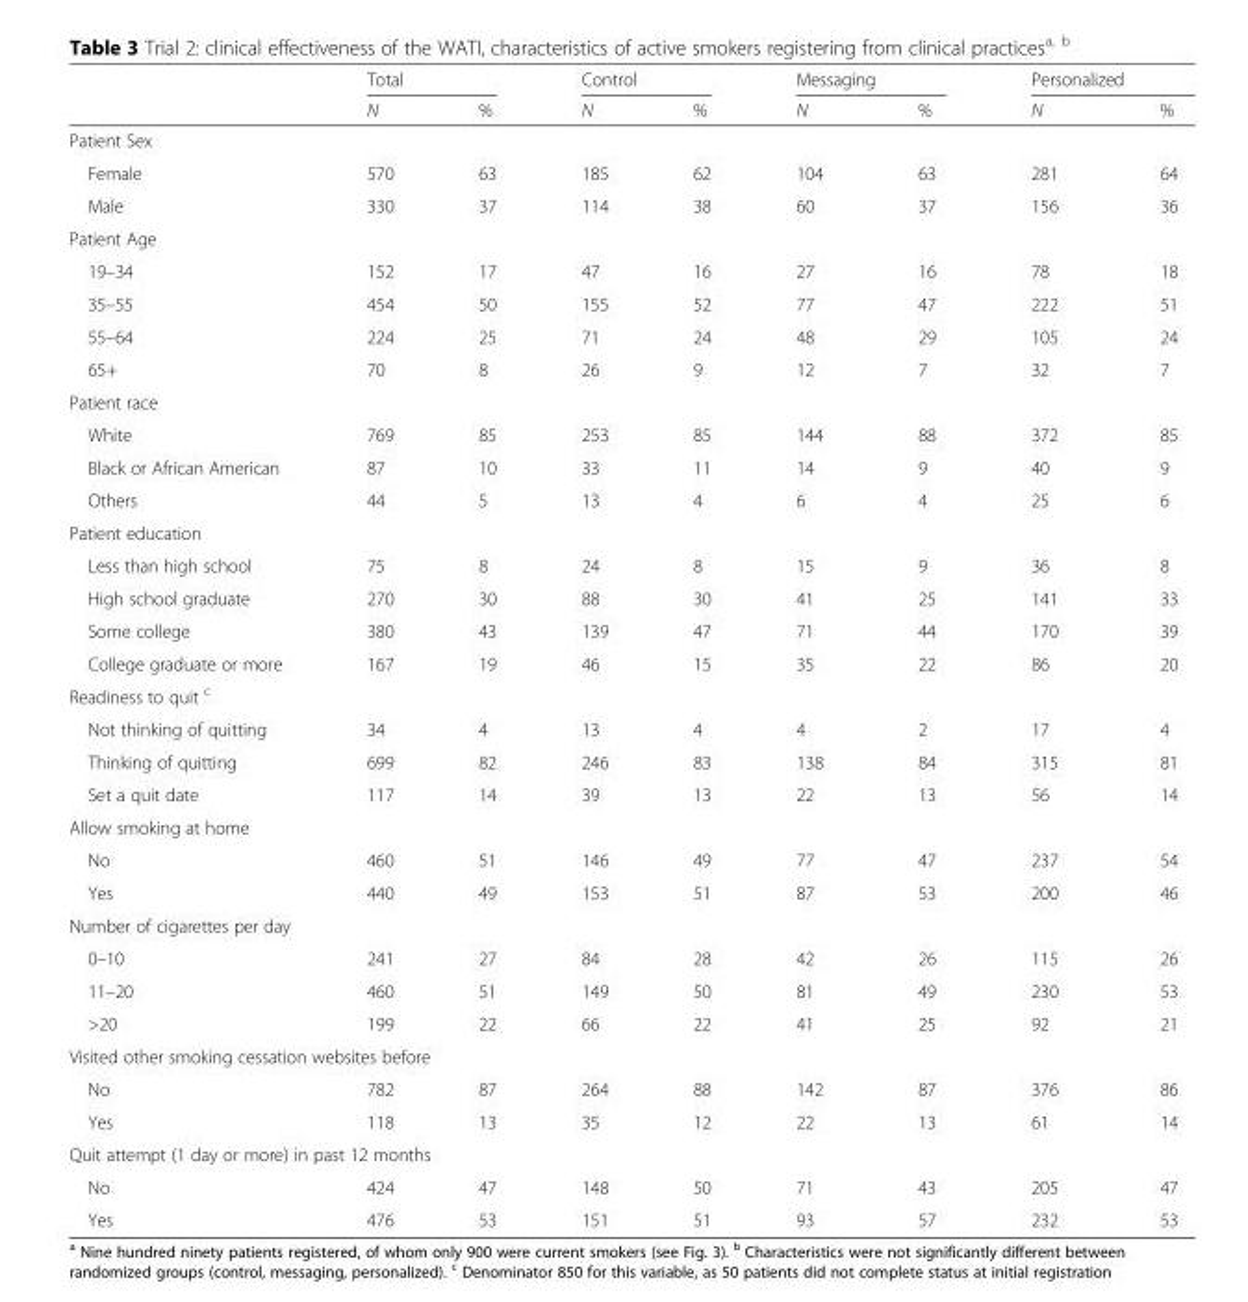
<table><thead><tr><td rowspan="2"></td><td colspan="2">Total</td><td colspan="2">Control</td><td colspan="2">Messaging</td><td colspan="2">Personalized</td></tr><tr><td>N</td><td>%</td><td>N</td><td>%</td><td>N</td><td>%</td><td>N</td><td>%</td></tr></thead><tbody><tr><td colspan="9">Patient Sex</td></tr><tr><td>Female</td><td>570</td><td>63</td><td>185</td><td>62</td><td>104</td><td>63</td><td>281</td><td>64</td></tr><tr><td>Male</td><td>330</td><td>37</td><td>114</td><td>38</td><td>60</td><td>37</td><td>156</td><td>36</td></tr><tr><td colspan="9">Patient Age</td></tr><tr><td>19–34</td><td>152</td><td>17</td><td>47</td><td>16</td><td>27</td><td>16</td><td>78</td><td>18</td></tr><tr><td>35–55</td><td>454</td><td>50</td><td>155</td><td>52</td><td>77</td><td>47</td><td>222</td><td>51</td></tr><tr><td>55–64</td><td>224</td><td>25</td><td>71</td><td>24</td><td>48</td><td>29</td><td>105</td><td>24</td></tr><tr><td>65+</td><td>70</td><td>8</td><td>26</td><td>9</td><td>12</td><td>7</td><td>32</td><td>7</td></tr><tr><td colspan="9">Patient race</td></tr><tr><td>White</td><td>769</td><td>85</td><td>253</td><td>85</td><td>144</td><td>88</td><td>372</td><td>85</td></tr><tr><td>Black or African American</td><td>87</td><td>10</td><td>33</td><td>11</td><td>14</td><td>9</td><td>40</td><td>9</td></tr><tr><td>Others</td><td>44</td><td>5</td><td>13</td><td>4</td><td>6</td><td>4</td><td>25</td><td>6</td></tr><tr><td colspan="9">Patient education</td></tr><tr><td>Less than high school</td><td>75</td><td>8</td><td>24</td><td>8</td><td>15</td><td>9</td><td>36</td><td>8</td></tr><tr><td>High school graduate</td><td>270</td><td>30</td><td>88</td><td>30</td><td>41</td><td>25</td><td>141</td><td>33</td></tr><tr><td>Some college</td><td>380</td><td>43</td><td>139</td><td>47</td><td>71</td><td>44</td><td>170</td><td>39</td></tr><tr><td>College graduate or more</td><td>167</td><td>19</td><td>46</td><td>15</td><td>35</td><td>22</td><td>86</td><td>20</td></tr><tr><td colspan="9">Readiness to quit <sup>c</sup></td></tr><tr><td>Not thinking of quitting</td><td>34</td><td>4</td><td>13</td><td>4</td><td>4</td><td>2</td><td>17</td><td>4</td></tr><tr><td>Thinking of quitting</td><td>699</td><td>82</td><td>246</td><td>83</td><td>138</td><td>84</td><td>315</td><td>81</td></tr><tr><td>Set a quit date</td><td>117</td><td>14</td><td>39</td><td>13</td><td>22</td><td>13</td><td>56</td><td>14</td></tr><tr><td colspan="9">Allow smoking at home</td></tr><tr><td>No</td><td>460</td><td>51</td><td>146</td><td>49</td><td>77</td><td>47</td><td>237</td><td>54</td></tr><tr><td>Yes</td><td>440</td><td>49</td><td>153</td><td>51</td><td>87</td><td>53</td><td>200</td><td>46</td></tr><tr><td colspan="9">Number of cigarettes per day</td></tr><tr><td>0–10</td><td>241</td><td>27</td><td>84</td><td>28</td><td>42</td><td>26</td><td>115</td><td>26</td></tr><tr><td>11–20</td><td>460</td><td>51</td><td>149</td><td>50</td><td>81</td><td>49</td><td>230</td><td>53</td></tr><tr><td>&gt;20</td><td>199</td><td>22</td><td>66</td><td>22</td><td>41</td><td>25</td><td>92</td><td>21</td></tr><tr><td colspan="9">Visited other smoking cessation websites before</td></tr><tr><td>No</td><td>782</td><td>87</td><td>264</td><td>88</td><td>142</td><td>87</td><td>376</td><td>86</td></tr><tr><td>Yes</td><td>118</td><td>13</td><td>35</td><td>12</td><td>22</td><td>13</td><td>61</td><td>14</td></tr><tr><td colspan="9">Quit attempt (1 day or more) in past 12 months</td></tr><tr><td>No</td><td>424</td><td>47</td><td>148</td><td>50</td><td>71</td><td>43</td><td>205</td><td>47</td></tr><tr><td>Yes</td><td>476</td><td>53</td><td>151</td><td>51</td><td>93</td><td>57</td><td>232</td><td>53</td></tr></tbody></table>